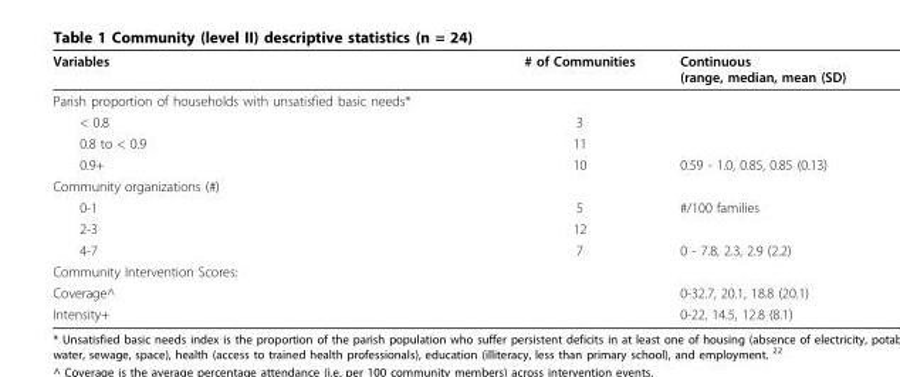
<table><thead><tr><td>Variables</td><td># of Communities</td><td>Continuous (range, median, mean (SD)</td></tr></thead><tbody><tr><td colspan="3">Parish proportion of households with unsatisfied basic needs*</td></tr><tr><td>&lt; 0.8</td><td>3</td><td></td></tr><tr><td>0.8 to &lt; 0.9</td><td>11</td><td></td></tr><tr><td>0.9+</td><td>10</td><td>0.59 - 1.0, 0.85, 0.85 (0.13)</td></tr><tr><td colspan="3">Community organizations (#)</td></tr><tr><td>0-1</td><td>5</td><td>#/100 families</td></tr><tr><td>2-3</td><td>12</td><td></td></tr><tr><td>4-7</td><td>7</td><td>0 - 7.8, 2.3, 2.9 (2.2)</td></tr><tr><td colspan="3">Community Intervention Scores:</td></tr><tr><td colspan="2">Coverage^</td><td>0-32.7, 20.1, 18.8 (20.1)</td></tr><tr><td colspan="2">Intensity+</td><td>0-22, 14.5, 12.8 (8.1)</td></tr></tbody></table>